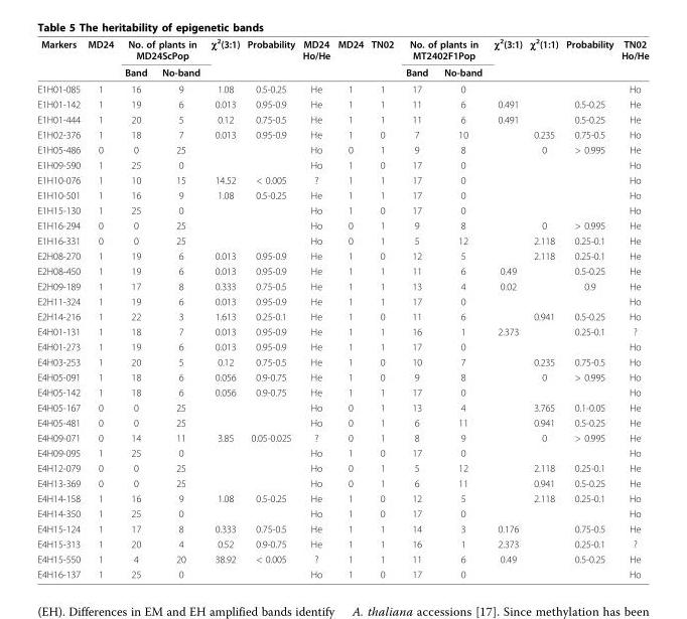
<table><thead><tr><td rowspan="2">Markers</td><td rowspan="2">MD24</td><td colspan="2">No. of plants in MD24ScPop</td><td rowspan="2">χ<sup>2</sup>(3:1)</td><td rowspan="2">Probability</td><td rowspan="2">MD24 Ho/He</td><td rowspan="2">MD24</td><td rowspan="2">TN02</td><td colspan="2">No. of plants in MT2402F1Pop</td><td rowspan="2">χ<sup>2</sup>(3:1)</td><td rowspan="2">χ<sup>2</sup>(1:1)</td><td rowspan="2">Probability</td><td rowspan="2">TN02 Ho/He</td></tr><tr><td>Band</td><td>No-band</td><td>Band</td><td>No-band</td></tr></thead><tbody><tr><td>E1H01-085</td><td>1</td><td>16</td><td>9</td><td>1.08</td><td>0.5-0.25</td><td>He</td><td>1</td><td>1</td><td>17</td><td>0</td><td></td><td></td><td></td><td>Ho</td></tr><tr><td>E1H01-142</td><td>1</td><td>19</td><td>6</td><td>0.013</td><td>0.95-0.9</td><td>He</td><td>1</td><td>1</td><td>11</td><td>6</td><td>0.491</td><td></td><td>0.5-0.25</td><td>He</td></tr><tr><td>E1H01-444</td><td>1</td><td>20</td><td>5</td><td>0.12</td><td>0.75-0.5</td><td>He</td><td>1</td><td>1</td><td>11</td><td>6</td><td>0.491</td><td></td><td>0.5-0.25</td><td>He</td></tr><tr><td>E1H02-376</td><td>1</td><td>18</td><td>7</td><td>0.013</td><td>0.95-0.9</td><td>He</td><td>1</td><td>0</td><td>7</td><td>10</td><td></td><td>0.235</td><td>0.75-0.5</td><td>Ho</td></tr><tr><td>E1H05-486</td><td>0</td><td>0</td><td>25</td><td></td><td></td><td>Ho</td><td>0</td><td>1</td><td>9</td><td>8</td><td></td><td>0</td><td>&gt; 0.995</td><td>He</td></tr><tr><td>E1H09-590</td><td>1</td><td>25</td><td>0</td><td></td><td></td><td>Ho</td><td>1</td><td>0</td><td>17</td><td>0</td><td></td><td></td><td></td><td>Ho</td></tr><tr><td>E1H10-076</td><td>1</td><td>10</td><td>15</td><td>14.52</td><td>&lt; 0.005</td><td>?</td><td>1</td><td>1</td><td>17</td><td>0</td><td></td><td></td><td></td><td>Ho</td></tr><tr><td>E1H10-501</td><td>1</td><td>16</td><td>9</td><td>1.08</td><td>0.5-0.25</td><td>He</td><td>1</td><td>1</td><td>17</td><td>0</td><td></td><td></td><td></td><td>Ho</td></tr><tr><td>E1H15-130</td><td>1</td><td>25</td><td>0</td><td></td><td></td><td>Ho</td><td>1</td><td>0</td><td>17</td><td>0</td><td></td><td></td><td></td><td>Ho</td></tr><tr><td>E1H16-294</td><td>0</td><td>0</td><td>25</td><td></td><td></td><td>Ho</td><td>0</td><td>1</td><td>9</td><td>8</td><td></td><td>0</td><td>&gt; 0.995</td><td>He</td></tr><tr><td>E1H16-331</td><td>0</td><td>0</td><td>25</td><td></td><td></td><td>Ho</td><td>0</td><td>1</td><td>5</td><td>12</td><td></td><td>2.118</td><td>0.25-0.1</td><td>He</td></tr><tr><td>E2H08-270</td><td>1</td><td>19</td><td>6</td><td>0.013</td><td>0.95-0.9</td><td>He</td><td>1</td><td>0</td><td>12</td><td>5</td><td></td><td>2.118</td><td>0.25-0.1</td><td>He</td></tr><tr><td>E2H08-450</td><td>1</td><td>19</td><td>6</td><td>0.013</td><td>0.95-0.9</td><td>He</td><td>1</td><td>1</td><td>11</td><td>6</td><td>0.49</td><td></td><td>0.5-0.25</td><td>He</td></tr><tr><td>E2H09-189</td><td>1</td><td>17</td><td>8</td><td>0.333</td><td>0.75-0.5</td><td>He</td><td>1</td><td>1</td><td>13</td><td>4</td><td>0.02</td><td></td><td>0.9</td><td>He</td></tr><tr><td>E2H11-324</td><td>1</td><td>19</td><td>6</td><td>0.013</td><td>0.95-0.9</td><td>He</td><td>1</td><td>1</td><td>17</td><td>0</td><td></td><td></td><td></td><td>Ho</td></tr><tr><td>E2H14-216</td><td>1</td><td>22</td><td>3</td><td>1.613</td><td>0.25-0.1</td><td>He</td><td>1</td><td>0</td><td>11</td><td>6</td><td></td><td>0.941</td><td>0.5-0.25</td><td>Ho</td></tr><tr><td>E4H01-131</td><td>1</td><td>18</td><td>7</td><td>0.013</td><td>0.95-0.9</td><td>He</td><td>1</td><td>1</td><td>16</td><td>1</td><td>2.373</td><td></td><td>0.25-0.1</td><td>?</td></tr><tr><td>E4H01-273</td><td>1</td><td>19</td><td>6</td><td>0.013</td><td>0.95-0.9</td><td>He</td><td>1</td><td>1</td><td>17</td><td>0</td><td></td><td></td><td></td><td>Ho</td></tr><tr><td>E4H03-253</td><td>1</td><td>20</td><td>5</td><td>0.12</td><td>0.75-0.5</td><td>He</td><td>1</td><td>0</td><td>10</td><td>7</td><td></td><td>0.235</td><td>0.75-0.5</td><td>Ho</td></tr><tr><td>E4H05-091</td><td>1</td><td>18</td><td>6</td><td>0.056</td><td>0.9-0.75</td><td>He</td><td>1</td><td>0</td><td>9</td><td>8</td><td></td><td>0</td><td>&gt; 0.995</td><td>Ho</td></tr><tr><td>E4H05-142</td><td>1</td><td>18</td><td>6</td><td>0.056</td><td>0.9-0.75</td><td>He</td><td>1</td><td>1</td><td>17</td><td>0</td><td></td><td></td><td></td><td>Ho</td></tr><tr><td>E4H05-167</td><td>0</td><td>0</td><td>25</td><td></td><td></td><td>Ho</td><td>0</td><td>1</td><td>13</td><td>4</td><td></td><td>3.765</td><td>0.1-0.05</td><td>He</td></tr><tr><td>E4H05-481</td><td>0</td><td>0</td><td>25</td><td></td><td></td><td>Ho</td><td>0</td><td>1</td><td>6</td><td>11</td><td></td><td>0.941</td><td>0.5-0.25</td><td>He</td></tr><tr><td>E4H09-071</td><td>0</td><td>14</td><td>11</td><td>3.85</td><td>0.05-0.025</td><td>?</td><td>0</td><td>1</td><td>8</td><td>9</td><td></td><td>0</td><td>&gt; 0.995</td><td>He</td></tr><tr><td>E4H09-095</td><td>1</td><td>25</td><td>0</td><td></td><td></td><td>Ho</td><td>1</td><td>0</td><td>17</td><td>0</td><td></td><td></td><td></td><td>Ho</td></tr><tr><td>E4H12-079</td><td>0</td><td>0</td><td>25</td><td></td><td></td><td>Ho</td><td>0</td><td>1</td><td>5</td><td>12</td><td></td><td>2.118</td><td>0.25-0.1</td><td>He</td></tr><tr><td>E4H13-369</td><td>0</td><td>0</td><td>25</td><td></td><td></td><td>Ho</td><td>0</td><td>1</td><td>6</td><td>11</td><td></td><td>0.941</td><td>0.5-0.25</td><td>He</td></tr><tr><td>E4H14-158</td><td>1</td><td>16</td><td>9</td><td>1.08</td><td>0.5-0.25</td><td>He</td><td>1</td><td>0</td><td>12</td><td>5</td><td></td><td>2.118</td><td>0.25-0.1</td><td>Ho</td></tr><tr><td>E4H14-350</td><td>1</td><td>25</td><td>0</td><td></td><td></td><td>Ho</td><td>1</td><td>0</td><td>17</td><td>0</td><td></td><td></td><td></td><td>Ho</td></tr><tr><td>E4H15-124</td><td>1</td><td>17</td><td>8</td><td>0.333</td><td>0.75-0.5</td><td>He</td><td>1</td><td>1</td><td>14</td><td>3</td><td>0.176</td><td></td><td>0.75-0.5</td><td>He</td></tr><tr><td>E4H15-313</td><td>1</td><td>20</td><td>4</td><td>0.52</td><td>0.9-0.75</td><td>He</td><td>1</td><td>1</td><td>16</td><td>1</td><td>2.373</td><td></td><td>0.25-0.1</td><td>?</td></tr><tr><td>E4H15-550</td><td>1</td><td>4</td><td>20</td><td>38.92</td><td>&lt; 0.005</td><td>?</td><td>1</td><td>1</td><td>11</td><td>6</td><td>0.49</td><td></td><td>0.5-0.25</td><td>He</td></tr><tr><td>E4H16-137</td><td>1</td><td>25</td><td>0</td><td></td><td></td><td>Ho</td><td>1</td><td>0</td><td>17</td><td>0</td><td></td><td></td><td></td><td>Ho</td></tr></tbody></table>